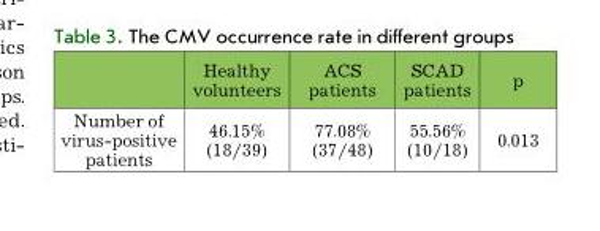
<table><thead><tr><td></td><td>Healthy volunteers</td><td>ACS patients</td><td>SCAD patients</td><td>p</td></tr></thead><tbody><tr><td>Number of virus-positive patients</td><td>46.15% (18/39)</td><td>77.08% (37/48)</td><td>55.56% (10/18)</td><td>0.013</td></tr></tbody></table>